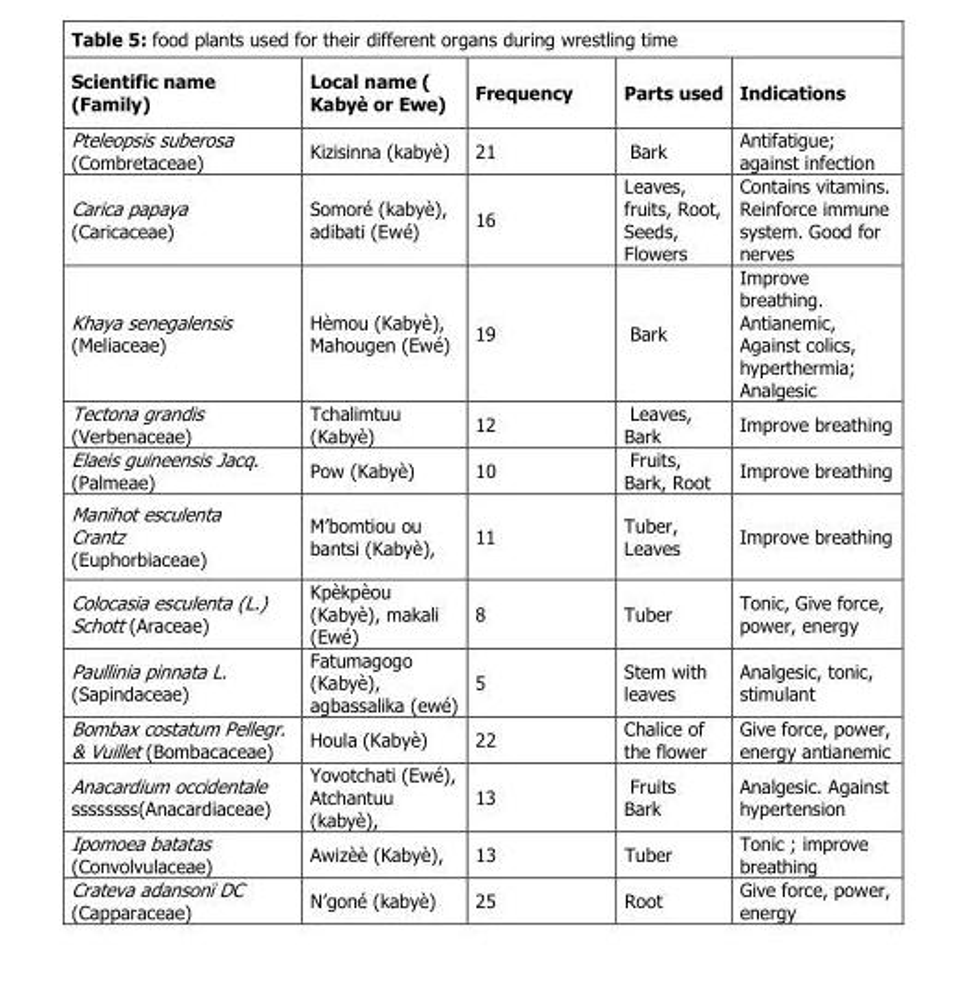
<table><thead><tr><td>Scientific name (Family)</td><td>Local name ( Kabyè or Ewe)</td><td>Frequency</td><td>Parts used</td><td>Indications</td></tr></thead><tbody><tr><td>Pteleopsis suberosa (Combretaceae)</td><td>Kizisinna (kabyè)</td><td>21</td><td>Bark</td><td>Antifatigue; against infection</td></tr><tr><td>Carica papaya (Caricaceae)</td><td>Somoré (kabyè), adibati (Ewé)</td><td>16</td><td>Leaves, fruits, Root, Seeds, Flowers</td><td>Contains vitamins. Reinforce immune system. Good for nerves</td></tr><tr><td>Khaya senegalensis (Meliaceae)</td><td>Hèmou (Kabyè), Mahougen (Ewé)</td><td>19</td><td>Bark</td><td>Improve breathing. Antianemic, Against colics, hyperthermia; Analgesic</td></tr><tr><td>Tectona grandis (Verbenaceae)</td><td>Tchalimtuu (Kabyè)</td><td>12</td><td>Leaves, Bark</td><td>Improve breathing</td></tr><tr><td>Elaeis guineensis Jacq. (Palmeae)</td><td>Pow (Kabyè)</td><td>10</td><td>Fruits, Bark, Root</td><td>Improve breathing</td></tr><tr><td>Manihot esculenta Crantz (Euphorbiaceae)</td><td>M’bomtiou ou bantsi (Kabyè),</td><td>11</td><td>Tuber, Leaves</td><td>Improve breathing</td></tr><tr><td>Colocasia esculenta (L.) Schott (Araceae)</td><td>Kpèkpèou (Kabyè), makali (Ewé)</td><td>8</td><td>Tuber</td><td>Tonic, Give force, power, energy</td></tr><tr><td>Paullinia pinnata L. (Sapindaceae)</td><td>Fatumagogo (Kabyè), agbassalika (ewé)</td><td>5</td><td>Stem with leaves</td><td>Analgesic, tonic, stimulant</td></tr><tr><td>Bombax costatum Pellegr. &amp; Vuillet (Bombacaceae)</td><td>Houla (Kabyè)</td><td>22</td><td>Chalice of the flower</td><td>Give force, power, energy antianemic</td></tr><tr><td>Anacardium occidentale ssssssss(Anacardiaceae)</td><td>Yovotchati (Ewé), Atchantuu (kabyè),</td><td>13</td><td>Fruits Bark</td><td>Analgesic. Against hypertension</td></tr><tr><td>Ipomoea batatas (Convolvulaceae)</td><td>Awizèè (Kabyè),</td><td>13</td><td>Tuber</td><td>Tonic ; improve breathing</td></tr><tr><td>Crateva adansonï DC (Capparaceae)</td><td>N’goné (kabyè)</td><td>25</td><td>Root</td><td>Give force, power, energy</td></tr></tbody></table>